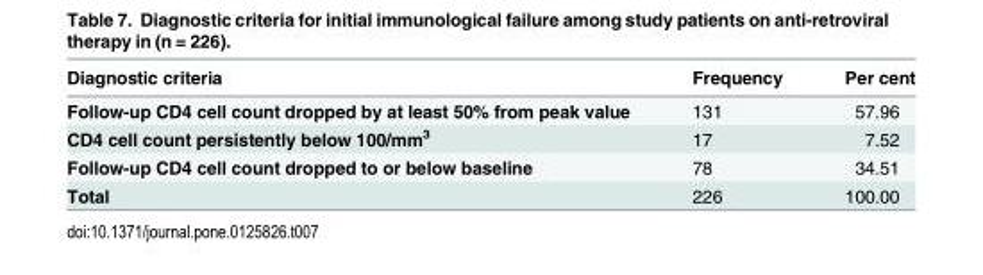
<table><thead><tr><td>Diagnostic criteria</td><td>Frequency</td><td>Per cent</td></tr></thead><tbody><tr><td>Follow-up CD4 cell count dropped by at least 50% from peak value</td><td>131</td><td>57.96</td></tr><tr><td>CD4 cell count persistently below 100/mm<sup>3</sup></td><td>17</td><td>7.52</td></tr><tr><td>Follow-up CD4 cell count dropped to or below baseline</td><td>78</td><td>34.51</td></tr><tr><td>Total</td><td>226</td><td>100.00</td></tr></tbody></table>